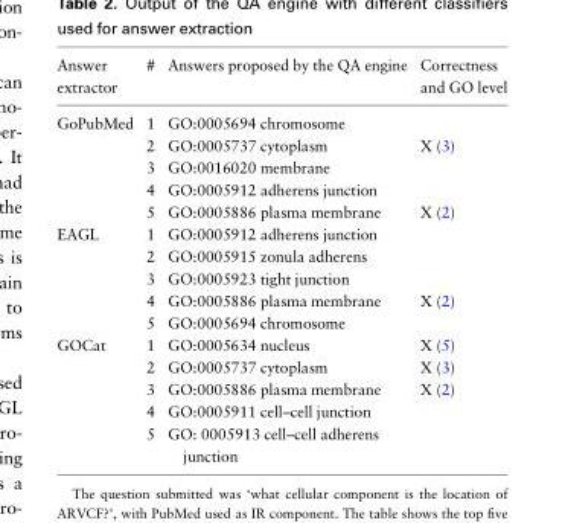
<table><thead><tr><td>Answer extractor</td><td>#</td><td>Answers proposed by the QA engine</td><td>Correctness and GO level</td></tr></thead><tbody><tr><td rowspan="5">GoPubMed</td><td>1</td><td>GO:0005694 chromosome</td><td></td></tr><tr><td>2</td><td>GO:0005737 cytoplasm</td><td>X (3)</td></tr><tr><td>3</td><td>GO:0016020 membrane</td><td></td></tr><tr><td>4</td><td>GO:0005912 adherens junction</td><td></td></tr><tr><td>5</td><td>GO:0005886 plasma membrane</td><td>X (2)</td></tr><tr><td rowspan="5">EAGL</td><td>1</td><td>GO:0005912 adherens junction</td><td></td></tr><tr><td>2</td><td>GO:0005915 zonula adherens</td><td></td></tr><tr><td>3</td><td>GO:0005923 tight junction</td><td></td></tr><tr><td>4</td><td>GO:0005886 plasma membrane</td><td>X (2)</td></tr><tr><td>5</td><td>GO:0005694 chromosome</td><td></td></tr><tr><td rowspan="5">GOCat</td><td>1</td><td>GO:0005634 nucleus</td><td>X (5)</td></tr><tr><td>2</td><td>GO:0005737 cytoplasm</td><td>X (3)</td></tr><tr><td>3</td><td>GO:0005886 plasma membrane</td><td>X (2)</td></tr><tr><td>4</td><td>GO:0005911 cell–cell junction</td><td></td></tr><tr><td>5</td><td>GO: 0005913 cell–cell adherens junction</td><td></td></tr></tbody></table>